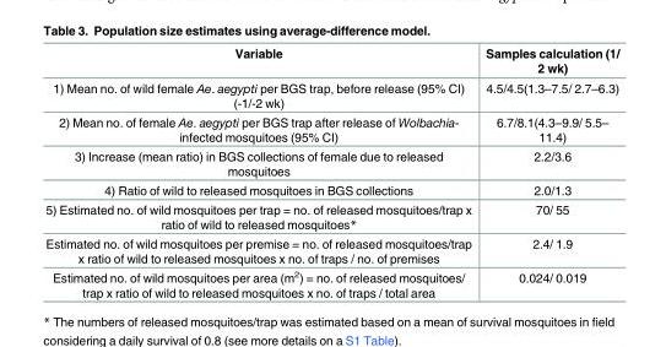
<table><thead><tr><td>Variable</td><td>Samples calculation (1/ 2 wk)</td></tr></thead><tbody><tr><td>1) Mean no. of wild female Ae. aegypti per BGS trap, before release (95% CI) (-1/-2 wk)</td><td>4.5/4.5(1.3–7.5/ 2.7–6.3)</td></tr><tr><td>2) Mean no. of female Ae. aegypti per BGS trap after release of Wolbachia- infected mosquitoes (95% CI)</td><td>6.7/8.1(4.3–9.9/ 5.5– 11.4)</td></tr><tr><td>3) Increase (mean ratio) in BGS collections of female due to released mosquitoes</td><td>2.2/3.6</td></tr><tr><td>4) Ratio of wild to released mosquitoes in BGS collections</td><td>2.0/1.3</td></tr><tr><td>5) Estimated no. of wild mosquitoes per trap = no. of released mosquitoes/trap x ratio of wild to released mosquitoes*</td><td>70/ 55</td></tr><tr><td>Estimated no. of wild mosquitoes per premise = no. of released mosquitoes/trap x ratio of wild to released mosquitoes x no. of traps / no. of premises</td><td>2.4/ 1.9</td></tr><tr><td>Estimated no. of wild mosquitoes per area (m<sup>2</sup>) = no. of released mosquitoes/ trap x ratio of wild to released mosquitoes x no. of traps / total area</td><td>0.024/ 0.019</td></tr></tbody></table>